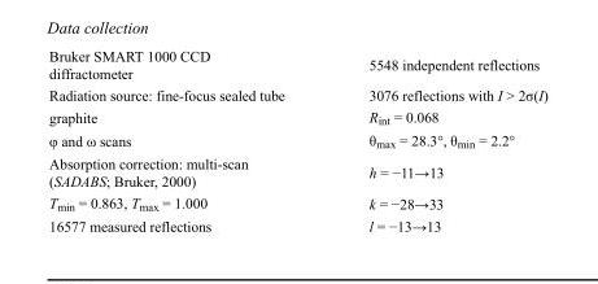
<table><tbody><tr><td>Bruker SMART 1000 CCD diffractometer</td><td>5548 independent reflections</td></tr><tr><td>Radiation source: fine-focus sealed tube</td><td>3076 reflections with I &gt; 2σ(I)</td></tr><tr><td>graphite</td><td>R<sub>int</sub> = 0.068</td></tr><tr><td>φ and ω scans</td><td>θ<sub>max</sub> = 28.3°, θ<sub>min</sub> = 2.2°</td></tr><tr><td>Absorption correction: multi-scan (SADABS; Bruker, 2000)</td><td>h = −11→13</td></tr><tr><td>T<sub>min</sub> = 0.863, T<sub>max</sub> = 1.000</td><td>k = −28→33</td></tr><tr><td>16577 measured reflections</td><td>l = −13→13</td></tr></tbody></table>